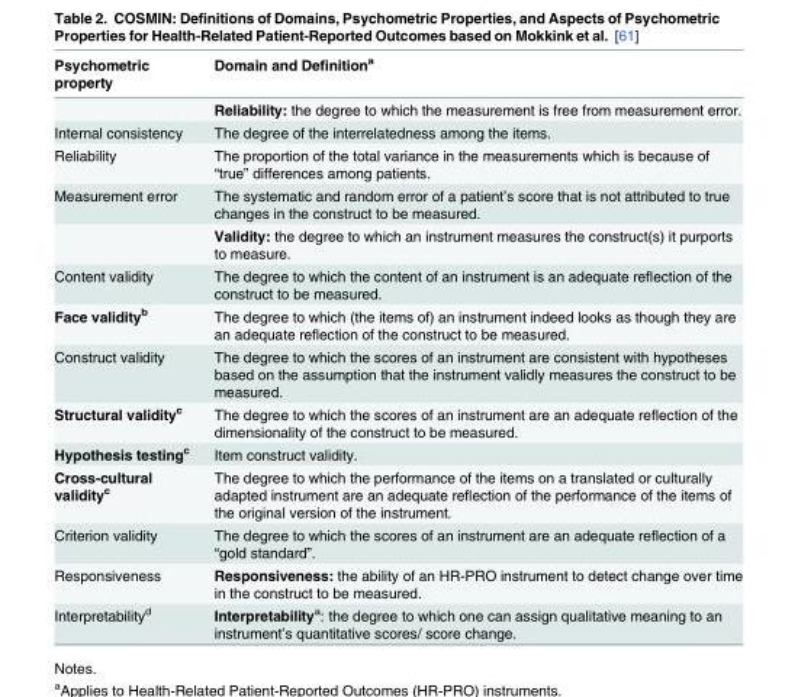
<table><thead><tr><td>Psychometric property</td><td>Domain and Definition<sup>a</sup></td></tr></thead><tbody><tr><td></td><td>Reliability: the degree to which the measurement is free from measurement error.</td></tr><tr><td>Internal consistency</td><td>The degree of the interrelatedness among the items.</td></tr><tr><td>Reliability</td><td>The proportion of the total variance in the measurements which is because of “true” differences among patients.</td></tr><tr><td rowspan="2">Measurement error</td><td>The systematic and random error of a patient’s score that is not attributed to true changes in the construct to be measured.</td></tr><tr><td>Validity: the degree to which an instrument measures the construct(s) it purports to measure.</td></tr><tr><td>Content validity</td><td>The degree to which the content of an instrument is an adequate reflection of the construct to be measured.</td></tr><tr><td>Face validity<sup>b</sup></td><td>The degree to which (the items of) an instrument indeed looks as though they are an adequate reflection of the construct to be measured.</td></tr><tr><td>Construct validity</td><td>The degree to which the scores of an instrument are consistent with hypotheses based on the assumption that the instrument validly measures the construct to be measured.</td></tr><tr><td>Structural validity<sup>c</sup></td><td>The degree to which the scores of an instrument are an adequate reflection of the dimensionality of the construct to be measured.</td></tr><tr><td>Hypothesis testing<sup>c</sup></td><td>Item construct validity.</td></tr><tr><td>Cross-cultural validity<sup>c</sup></td><td>The degree to which the performance of the items on a translated or culturally adapted instrument are an adequate reflection of the performance of the items of the original version of the instrument.</td></tr><tr><td>Criterion validity</td><td>The degree to which the scores of an instrument are an adequate reflection of a “gold standard”.</td></tr><tr><td>Responsiveness</td><td>Responsiveness: the ability of an HR-PRO instrument to detect change over time in the construct to be measured.</td></tr><tr><td>Interpretability<sup>d</sup></td><td>Interpretability<sup>a</sup>: the degree to which one can assign qualitative meaning to an instrument’s quantitative scores/ score change.</td></tr></tbody></table>